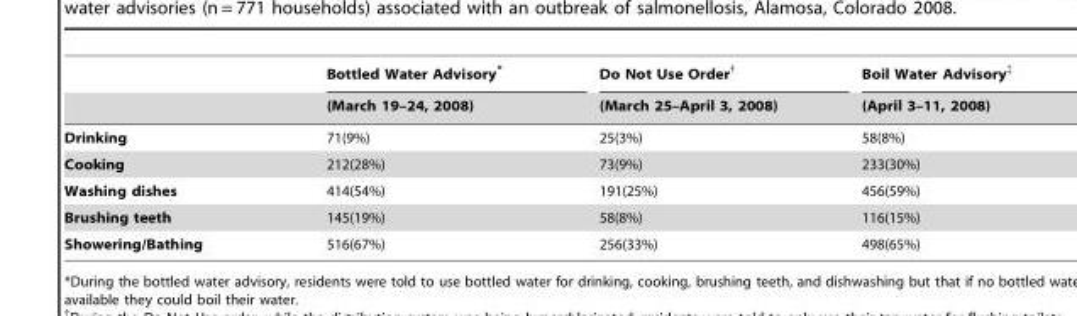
<table><thead><tr><td rowspan="2"></td><td rowspan="2">Bottled Water Advisory* (March 19–24, 2008)</td><td rowspan="2">Do Not Use Order† (March 25–April 3, 2008)</td><td rowspan="2">Boil Water Advisory‡ (April 3–11, 2008)</td></tr><tr></tr></thead><tbody><tr><td>Drinking</td><td>71(9%)</td><td>25(3%)</td><td>58(8%)</td></tr><tr><td>Cooking</td><td>212(28%)</td><td>73(9%)</td><td>233(30%)</td></tr><tr><td>Washing dishes</td><td>414(54%)</td><td>191(25%)</td><td>456(59%)</td></tr><tr><td>Brushing teeth</td><td>145(19%)</td><td>58(8%)</td><td>116(15%)</td></tr><tr><td>Showering/Bathing</td><td>516(67%)</td><td>256(33%)</td><td>498(65%)</td></tr></tbody></table>